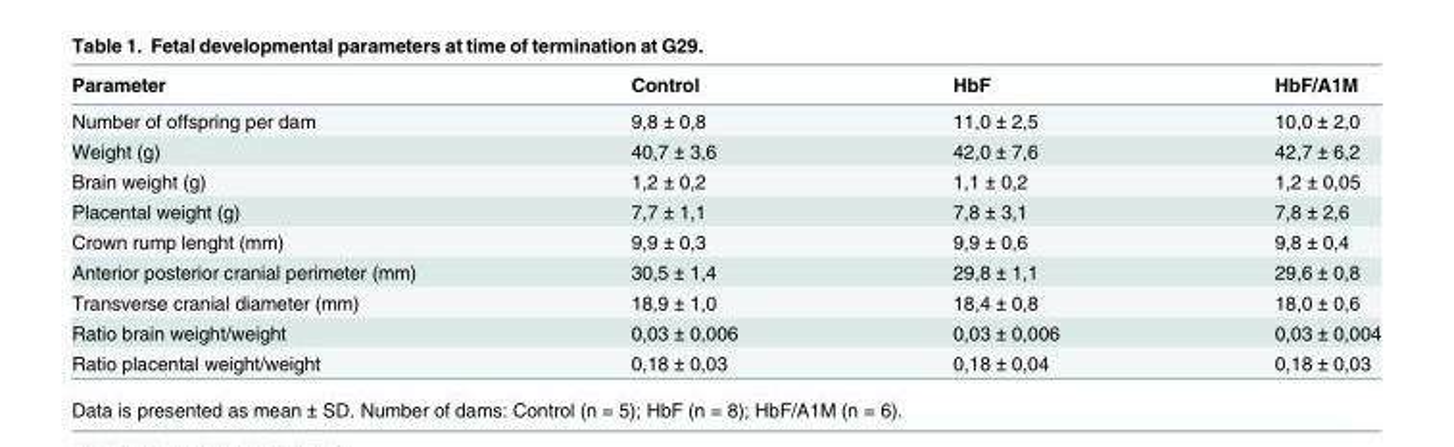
<table><thead><tr><td>Parameter</td><td>Control</td><td>HbF</td><td>HbF/A1M</td></tr></thead><tbody><tr><td>Number of offspring per dam</td><td>9,8 ± 0,8</td><td>11,0 ± 2,5</td><td>10,0 ± 2,0</td></tr><tr><td>Weight (g)</td><td>40,7 ± 3,6</td><td>42,0 ± 7,6</td><td>42,7 ± 6,2</td></tr><tr><td>Brain weight (g)</td><td>1,2 ± 0,2</td><td>1,1 ± 0,2</td><td>1,2 ± 0,05</td></tr><tr><td>Placental weight (g)</td><td>7,7 ± 1,1</td><td>7,8 ± 3,1</td><td>7,8 ± 2,6</td></tr><tr><td>Crown rump lenght (mm)</td><td>9,9 ± 0,3</td><td>9,9 ± 0,6</td><td>9,8 ± 0,4</td></tr><tr><td>Anterior posterior cranial perimeter (mm)</td><td>30,5 ± 1,4</td><td>29,8 ± 1,1</td><td>29,6 ± 0,8</td></tr><tr><td>Transverse cranial diameter (mm)</td><td>18,9 ± 1,0</td><td>18,4 ± 0,8</td><td>18,0 ± 0,6</td></tr><tr><td>Ratio brain weight/weight</td><td>0,03 ± 0,006</td><td>0,03 ± 0,006</td><td>0,03 ± 0,004</td></tr><tr><td>Ratio placental weight/weight</td><td>0,18 ± 0,03</td><td>0,18 ± 0,04</td><td>0,18 ± 0,03</td></tr></tbody></table>